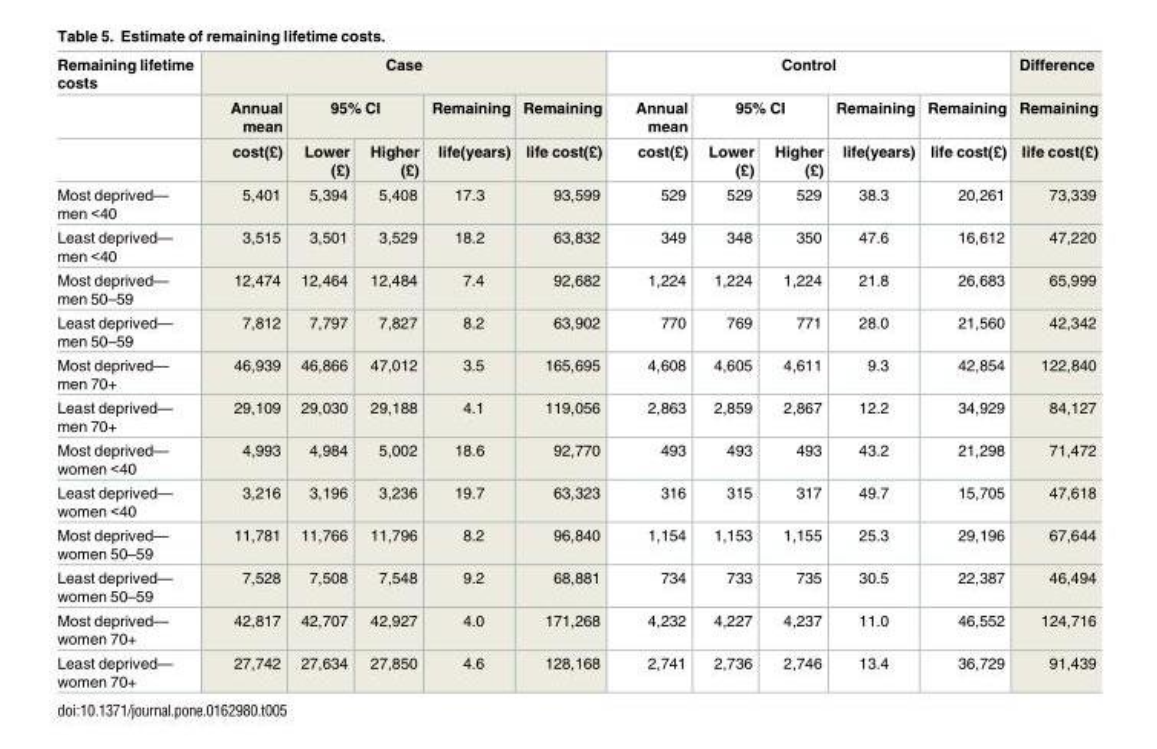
<table><thead><tr><td rowspan="3">Remaining lifetime costs</td><td colspan="5">Case</td><td colspan="5">Control</td><td rowspan="3">Difference Remaining life cost(£)</td></tr><tr><td rowspan="2">Annual mean cost(£)</td><td colspan="2">95% CI</td><td rowspan="2">Remaining life(years)</td><td rowspan="2">Remaining life cost(£)</td><td rowspan="2">Annual mean cost(£)</td><td colspan="2">95% CI</td><td rowspan="2">Remaining life(years)</td><td rowspan="2">Remaining life cost(£)</td></tr><tr><td>Lower (£)</td><td>Higher (£)</td><td>Lower (£)</td><td>Higher (£)</td></tr></thead><tbody><tr><td>Most deprived— men &lt;40</td><td>5,401</td><td>5,394</td><td>5,408</td><td>17.3</td><td>93,599</td><td>529</td><td>529</td><td>529</td><td>38.3</td><td>20,261</td><td>73,339</td></tr><tr><td>Least deprived— men &lt;40</td><td>3,515</td><td>3,501</td><td>3,529</td><td>18.2</td><td>63,832</td><td>349</td><td>348</td><td>350</td><td>47.6</td><td>16,612</td><td>47,220</td></tr><tr><td>Most deprived— men 50–59</td><td>12,474</td><td>12,464</td><td>12,484</td><td>7.4</td><td>92,682</td><td>1,224</td><td>1,224</td><td>1,224</td><td>21.8</td><td>26,683</td><td>65,999</td></tr><tr><td>Least deprived— men 50–59</td><td>7,812</td><td>7,797</td><td>7,827</td><td>8.2</td><td>63,902</td><td>770</td><td>769</td><td>771</td><td>28.0</td><td>21,560</td><td>42,342</td></tr><tr><td>Most deprived— men 70+</td><td>46,939</td><td>46,866</td><td>47,012</td><td>3.5</td><td>165,695</td><td>4,608</td><td>4,605</td><td>4,611</td><td>9.3</td><td>42,854</td><td>122,840</td></tr><tr><td>Least deprived— men 70+</td><td>29,109</td><td>29,030</td><td>29,188</td><td>4.1</td><td>119,056</td><td>2,863</td><td>2,859</td><td>2,867</td><td>12.2</td><td>34,929</td><td>84,127</td></tr><tr><td>Most deprived— women &lt;40</td><td>4,993</td><td>4,984</td><td>5,002</td><td>18.6</td><td>92,770</td><td>493</td><td>493</td><td>493</td><td>43.2</td><td>21,298</td><td>71,472</td></tr><tr><td>Least deprived— women &lt;40</td><td>3,216</td><td>3,196</td><td>3,236</td><td>19.7</td><td>63,323</td><td>316</td><td>315</td><td>317</td><td>49.7</td><td>15,705</td><td>47,618</td></tr><tr><td>Most deprived— women 50–59</td><td>11,781</td><td>11,766</td><td>11,796</td><td>8.2</td><td>96,840</td><td>1,154</td><td>1,153</td><td>1,155</td><td>25.3</td><td>29,196</td><td>67,644</td></tr><tr><td>Least deprived— women 50–59</td><td>7,528</td><td>7,508</td><td>7,548</td><td>9.2</td><td>68,881</td><td>734</td><td>733</td><td>735</td><td>30.5</td><td>22,387</td><td>46,494</td></tr><tr><td>Most deprived— women 70+</td><td>42,817</td><td>42,707</td><td>42,927</td><td>4.0</td><td>171,268</td><td>4,232</td><td>4,227</td><td>4,237</td><td>11.0</td><td>46,552</td><td>124,716</td></tr><tr><td>Least deprived— women 70+</td><td>27,742</td><td>27,634</td><td>27,850</td><td>4.6</td><td>128,168</td><td>2,741</td><td>2,736</td><td>2,746</td><td>13.4</td><td>36,729</td><td>91,439</td></tr></tbody></table>